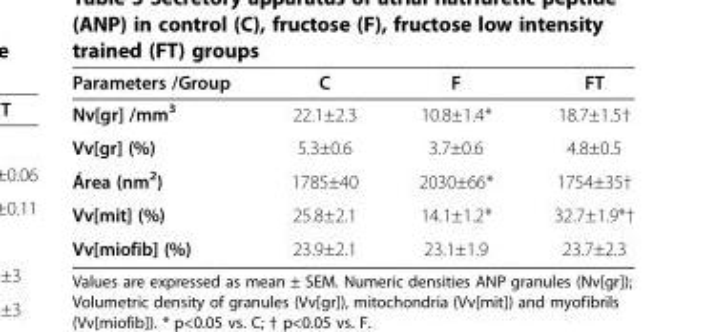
<table><thead><tr><td>Parameters /Group</td><td>C</td><td>F</td><td>FT</td></tr></thead><tbody><tr><td>Nv[gr] /mm<sup>3</sup></td><td>22.1±2.3</td><td>10.8±1.4*</td><td>18.7±1.5†</td></tr><tr><td>Vv[gr] (%)</td><td>5.3±0.6</td><td>3.7±0.6</td><td>4.8±0.5</td></tr><tr><td>Área (nm<sup>2</sup>)</td><td>1785±40</td><td>2030±66*</td><td>1754±35†</td></tr><tr><td>Vv[mit] (%)</td><td>25.8±2.1</td><td>14.1±1.2*</td><td>32.7±1.9*†</td></tr><tr><td>Vv[miofib] (%)</td><td>23.9±2.1</td><td>23.1±1.9</td><td>23.7±2.3</td></tr></tbody></table>